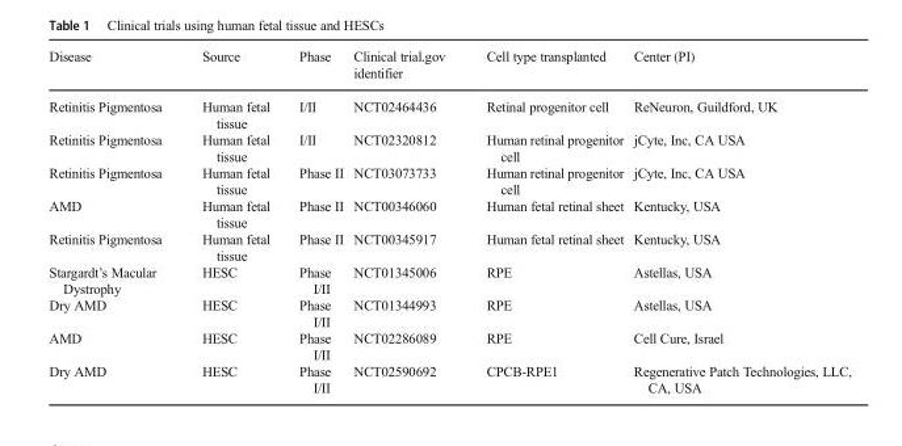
<table><thead><tr><td>Disease</td><td>Source</td><td>Phase</td><td>Clinical trial.gov identifier</td><td>Cell type transplanted</td><td>Center (PI)</td></tr></thead><tbody><tr><td>Retinitis Pigmentosa</td><td>Human fetal tissue</td><td>I/II</td><td>NCT02464436</td><td>Retinal progenitor cell</td><td>ReNeuron, Guildford, UK</td></tr><tr><td>Retinitis Pigmentosa</td><td>Human fetal tissue</td><td>I/II</td><td>NCT02320812</td><td>Human retinal progenitor cell</td><td>jCyte, Inc, CA USA</td></tr><tr><td>Retinitis Pigmentosa</td><td>Human fetal tissue</td><td>Phase II</td><td>NCT03073733</td><td>Human retinal progenitor cell</td><td>jCyte, Inc, CA USA</td></tr><tr><td>AMD</td><td>Human fetal tissue</td><td>Phase II</td><td>NCT00346060</td><td>Human fetal retinal sheet</td><td>Kentucky, USA</td></tr><tr><td>Retinitis Pigmentosa</td><td>Human fetal tissue</td><td>Phase II</td><td>NCT00345917</td><td>Human fetal retinal sheet</td><td>Kentucky, USA</td></tr><tr><td>Stargardt’s Macular Dystrophy</td><td>HESC</td><td>Phase I/II</td><td>NCT01345006</td><td>RPE</td><td>Astellas, USA</td></tr><tr><td>Dry AMD</td><td>HESC</td><td>Phase I/II</td><td>NCT01344993</td><td>RPE</td><td>Astellas, USA</td></tr><tr><td>AMD</td><td>HESC</td><td>Phase I/II</td><td>NCT02286089</td><td>RPE</td><td>Cell Cure, Israel</td></tr><tr><td>Dry AMD</td><td>HESC</td><td>Phase I/II</td><td>NCT02590692</td><td>CPCB-RPE1</td><td>Regenerative Patch Technologies, LLC, CA, USA</td></tr></tbody></table>